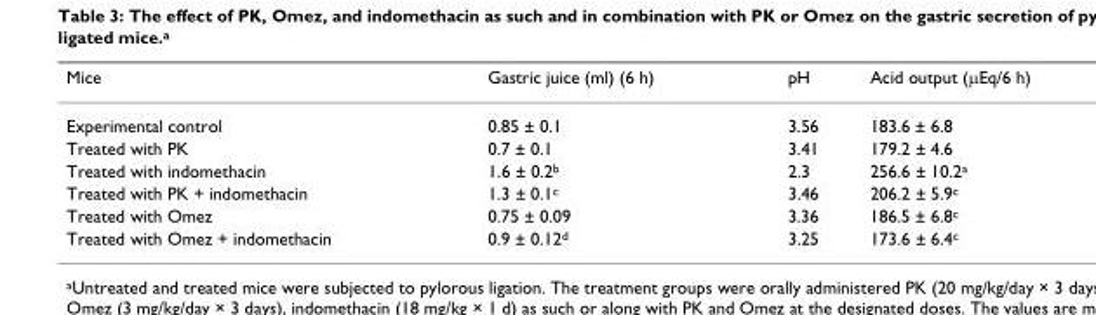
<table><thead><tr><td>Mice</td><td>Gastric juice (ml) (6 h)</td><td>pH</td><td>Acid output (μEq/6 h)</td></tr></thead><tbody><tr><td>Experimental control</td><td>0.85 ± 0.1</td><td>3.56</td><td>183.6 ± 6.8</td></tr><tr><td>Treated with PK</td><td>0.7 ± 0.1</td><td>3.41</td><td>179.2 ± 4.6</td></tr><tr><td>Treated with indomethacin</td><td>1.6 ± 0.2<sup>b</sup></td><td>2.3</td><td>256.6 ± 10.2<sup>a</sup></td></tr><tr><td>Treated with PK + indomethacin</td><td>1.3 ± 0.1<sup>c</sup></td><td>3.46</td><td>206.2 ± 5.9<sup>c</sup></td></tr><tr><td>Treated with Omez</td><td>0.75 ± 0.09</td><td>3.36</td><td>186.5 ± 6.8<sup>c</sup></td></tr><tr><td>Treated with Omez + indomethacin</td><td>0.9 ± 0.12<sup>d</sup></td><td>3.25</td><td>173.6 ± 6.4<sup>c</sup></td></tr></tbody></table>